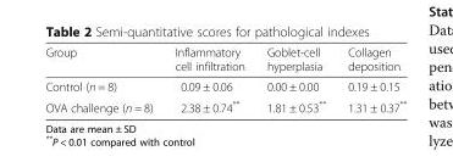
<table><thead><tr><td>Group</td><td>Inflammatory cell infiltration</td><td>Goblet-cell hyperplasia</td><td>Collagen deposition</td></tr></thead><tbody><tr><td>Control (n = 8)</td><td>0.09 ± 0.06</td><td>0.00 ± 0.00</td><td>0.19 ± 0.15</td></tr><tr><td>OVA challenge (n = 8)</td><td>2.38 ± 0.74**</td><td>1.81 ± 0.53**</td><td>1.31 ± 0.37**</td></tr></tbody></table>